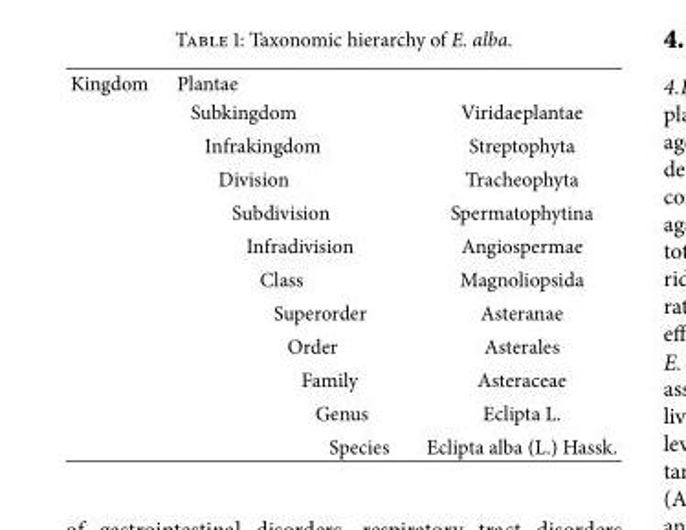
<table><tbody><tr><td rowspan="12">Kingdom</td><td>Plantae</td><td></td></tr><tr><td>Subkingdom</td><td>Viridaeplantae</td></tr><tr><td>Infrakingdom</td><td>Streptophyta</td></tr><tr><td>Division</td><td>Tracheophyta</td></tr><tr><td>Subdivision</td><td>Spermatophytina</td></tr><tr><td>Infradivision</td><td>Angiospermae</td></tr><tr><td>Class</td><td>Magnoliopsida</td></tr><tr><td>Superorder</td><td>Asteranae</td></tr><tr><td>Order</td><td>Asterales</td></tr><tr><td>Family</td><td>Asteraceae</td></tr><tr><td>Genus</td><td>Eclipta L.</td></tr><tr><td>Species</td><td>Eclipta alba (L.) Hassk.</td></tr></tbody></table>